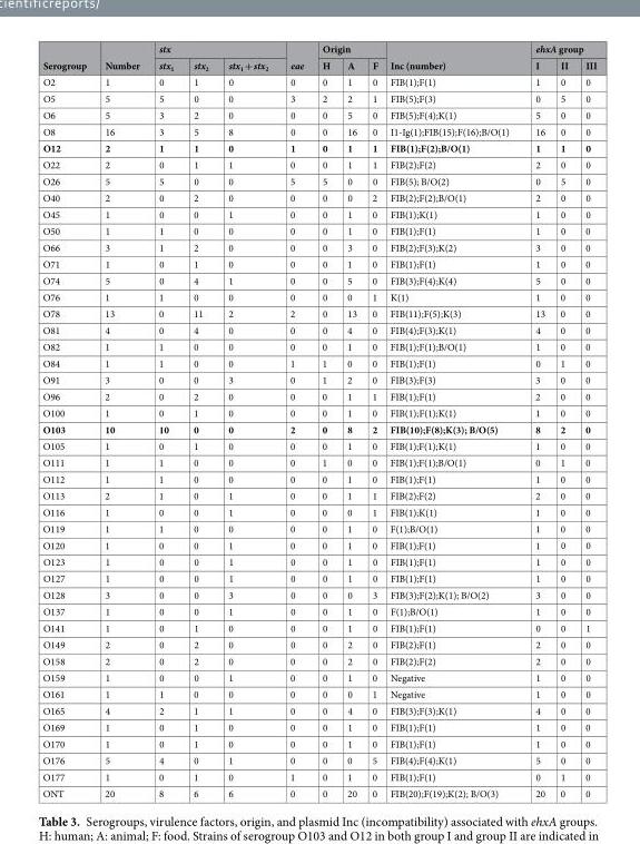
<table><thead><tr><td rowspan="2">Serogroup</td><td rowspan="2">Number</td><td colspan="3">stx</td><td rowspan="2">eae</td><td colspan="3">Origin</td><td rowspan="2">Inc (number)</td><td colspan="3">ehxA group</td></tr><tr><td>stx<sub>1</sub></td><td>stx<sub>2</sub></td><td>stx<sub>1</sub> + stx<sub>2</sub></td><td>H</td><td>A</td><td>F</td><td>I</td><td>II</td><td>III</td></tr></thead><tbody><tr><td>O2</td><td>1</td><td>0</td><td>1</td><td>0</td><td>0</td><td>0</td><td>1</td><td>0</td><td>FIB(1);F(1)</td><td>1</td><td>0</td><td>0</td></tr><tr><td>O5</td><td>5</td><td>5</td><td>0</td><td>0</td><td>3</td><td>2</td><td>2</td><td>1</td><td>FIB(5);F(3)</td><td>0</td><td>5</td><td>0</td></tr><tr><td>O6</td><td>5</td><td>3</td><td>2</td><td>0</td><td>0</td><td>0</td><td>5</td><td>0</td><td>FIB(5);F(4);K(1)</td><td>5</td><td>0</td><td>0</td></tr><tr><td>O8</td><td>16</td><td>3</td><td>5</td><td>8</td><td>0</td><td>0</td><td>16</td><td>0</td><td>I1-Ig(1);FIB(15);F(16);B/O(1)</td><td>16</td><td>0</td><td>0</td></tr><tr><td>O12</td><td>2</td><td>1</td><td>1</td><td>0</td><td>1</td><td>0</td><td>1</td><td>1</td><td>FIB(1);F(2);B/O(1)</td><td>1</td><td>1</td><td>0</td></tr><tr><td>O22</td><td>2</td><td>0</td><td>1</td><td>1</td><td>0</td><td>0</td><td>1</td><td>1</td><td>FIB(2);F(2)</td><td>2</td><td>0</td><td>0</td></tr><tr><td>O26</td><td>5</td><td>5</td><td>0</td><td>0</td><td>5</td><td>5</td><td>0</td><td>0</td><td>FIB(5); B/O(2)</td><td>0</td><td>5</td><td>0</td></tr><tr><td>O40</td><td>2</td><td>0</td><td>2</td><td>0</td><td>0</td><td>0</td><td>0</td><td>2</td><td>FIB(2);F(2);B/O(1)</td><td>2</td><td>0</td><td>0</td></tr><tr><td>O45</td><td>1</td><td>0</td><td>0</td><td>1</td><td>0</td><td>0</td><td>1</td><td>0</td><td>FIB(1);K(1)</td><td>1</td><td>0</td><td>0</td></tr><tr><td>O50</td><td>1</td><td>1</td><td>0</td><td>0</td><td>0</td><td>0</td><td>1</td><td>0</td><td>FIB(1);F(1)</td><td>1</td><td>0</td><td>0</td></tr><tr><td>O66</td><td>3</td><td>1</td><td>2</td><td>0</td><td>0</td><td>0</td><td>3</td><td>0</td><td>FIB(2);F(3);K(2)</td><td>3</td><td>0</td><td>0</td></tr><tr><td>O71</td><td>1</td><td>0</td><td>1</td><td>0</td><td>0</td><td>0</td><td>1</td><td>0</td><td>FIB(1);F(1)</td><td>1</td><td>0</td><td>0</td></tr><tr><td>O74</td><td>5</td><td>0</td><td>4</td><td>1</td><td>0</td><td>0</td><td>5</td><td>0</td><td>FIB(3);F(4);K(4)</td><td>5</td><td>0</td><td>0</td></tr><tr><td>O76</td><td>1</td><td>1</td><td>0</td><td>0</td><td>0</td><td>0</td><td>0</td><td>1</td><td>K(1)</td><td>1</td><td>0</td><td>0</td></tr><tr><td>O78</td><td>13</td><td>0</td><td>11</td><td>2</td><td>2</td><td>0</td><td>13</td><td>0</td><td>FIB(11);F(5);K(3)</td><td>13</td><td>0</td><td>0</td></tr><tr><td>O81</td><td>4</td><td>0</td><td>4</td><td>0</td><td>0</td><td>0</td><td>4</td><td>0</td><td>FIB(4);F(3);K(1)</td><td>4</td><td>0</td><td>0</td></tr><tr><td>O82</td><td>1</td><td>1</td><td>0</td><td>0</td><td>0</td><td>0</td><td>1</td><td>0</td><td>FIB(1);F(1);B/O(1)</td><td>1</td><td>0</td><td>0</td></tr><tr><td>O84</td><td>1</td><td>1</td><td>0</td><td>0</td><td>1</td><td>1</td><td>0</td><td>0</td><td>FIB(1);F(1)</td><td>0</td><td>1</td><td>0</td></tr><tr><td>O91</td><td>3</td><td>0</td><td>0</td><td>3</td><td>0</td><td>1</td><td>2</td><td>0</td><td>FIB(3);F(3)</td><td>3</td><td>0</td><td>0</td></tr><tr><td>O96</td><td>2</td><td>0</td><td>2</td><td>0</td><td>0</td><td>0</td><td>1</td><td>1</td><td>FIB(1);F(1)</td><td>2</td><td>0</td><td>0</td></tr><tr><td>O100</td><td>1</td><td>0</td><td>1</td><td>0</td><td>0</td><td>0</td><td>1</td><td>0</td><td>FIB(1);F(1);K(1)</td><td>1</td><td>0</td><td>0</td></tr><tr><td>O103</td><td>10</td><td>10</td><td>0</td><td>0</td><td>2</td><td>0</td><td>8</td><td>2</td><td>FIB(10);F(8);K(3); B/O(5)</td><td>8</td><td>2</td><td>0</td></tr><tr><td>O105</td><td>1</td><td>0</td><td>1</td><td>0</td><td>0</td><td>0</td><td>1</td><td>0</td><td>FIB(1);F(1);K(1)</td><td>1</td><td>0</td><td>0</td></tr><tr><td>O111</td><td>1</td><td>1</td><td>0</td><td>0</td><td>0</td><td>1</td><td>0</td><td>0</td><td>FIB(1);F(1);B/O(1)</td><td>0</td><td>1</td><td>0</td></tr><tr><td>O112</td><td>1</td><td>1</td><td>0</td><td>0</td><td>0</td><td>0</td><td>1</td><td>0</td><td>FIB(1);F(1)</td><td>1</td><td>0</td><td>0</td></tr><tr><td>O113</td><td>2</td><td>1</td><td>0</td><td>1</td><td>0</td><td>0</td><td>1</td><td>1</td><td>FIB(2);F(2)</td><td>2</td><td>0</td><td>0</td></tr><tr><td>O116</td><td>1</td><td>0</td><td>0</td><td>1</td><td>0</td><td>0</td><td>0</td><td>1</td><td>FIB(1);K(1)</td><td>1</td><td>0</td><td>0</td></tr><tr><td>O119</td><td>1</td><td>1</td><td>0</td><td>0</td><td>0</td><td>0</td><td>1</td><td>0</td><td>F(1);B/O(1)</td><td>1</td><td>0</td><td>0</td></tr><tr><td>O120</td><td>1</td><td>0</td><td>0</td><td>1</td><td>0</td><td>0</td><td>1</td><td>0</td><td>FIB(1);F(1)</td><td>1</td><td>0</td><td>0</td></tr><tr><td>O123</td><td>1</td><td>0</td><td>0</td><td>1</td><td>0</td><td>0</td><td>1</td><td>0</td><td>FIB(1);F(1)</td><td>1</td><td>0</td><td>0</td></tr><tr><td>O127</td><td>1</td><td>0</td><td>0</td><td>1</td><td>0</td><td>0</td><td>1</td><td>0</td><td>FIB(1);F(1)</td><td>1</td><td>0</td><td>0</td></tr><tr><td>O128</td><td>3</td><td>0</td><td>0</td><td>3</td><td>0</td><td>0</td><td>0</td><td>3</td><td>FIB(3);F(2);K(1); B/O(2)</td><td>3</td><td>0</td><td>0</td></tr><tr><td>O137</td><td>1</td><td>0</td><td>0</td><td>1</td><td>0</td><td>0</td><td>1</td><td>0</td><td>F(1);B/O(1)</td><td>1</td><td>0</td><td>0</td></tr><tr><td>O141</td><td>1</td><td>0</td><td>1</td><td>0</td><td>0</td><td>0</td><td>1</td><td>0</td><td>FIB(1);F(1)</td><td>0</td><td>0</td><td>1</td></tr><tr><td>O149</td><td>2</td><td>0</td><td>2</td><td>0</td><td>0</td><td>0</td><td>2</td><td>0</td><td>FIB(2);F(1)</td><td>2</td><td>0</td><td>0</td></tr><tr><td>O158</td><td>2</td><td>0</td><td>2</td><td>0</td><td>0</td><td>0</td><td>2</td><td>0</td><td>FIB(2);F(2)</td><td>2</td><td>0</td><td>0</td></tr><tr><td>O159</td><td>1</td><td>0</td><td>0</td><td>1</td><td>0</td><td>0</td><td>1</td><td>0</td><td>Negative</td><td>1</td><td>0</td><td>0</td></tr><tr><td>O161</td><td>1</td><td>1</td><td>0</td><td>0</td><td>0</td><td>0</td><td>0</td><td>1</td><td>Negative</td><td>1</td><td>0</td><td>0</td></tr><tr><td>O165</td><td>4</td><td>2</td><td>1</td><td>1</td><td>0</td><td>0</td><td>4</td><td>0</td><td>FIB(3);F(3);K(1)</td><td>4</td><td>0</td><td>0</td></tr><tr><td>O169</td><td>1</td><td>0</td><td>1</td><td>0</td><td>0</td><td>0</td><td>1</td><td>0</td><td>FIB(1);F(1)</td><td>1</td><td>0</td><td>0</td></tr><tr><td>O170</td><td>1</td><td>0</td><td>1</td><td>0</td><td>0</td><td>0</td><td>1</td><td>0</td><td>FIB(1);F(1)</td><td>1</td><td>0</td><td>0</td></tr><tr><td>O176</td><td>5</td><td>4</td><td>0</td><td>1</td><td>0</td><td>0</td><td>0</td><td>5</td><td>FIB(4);F(4);K(1)</td><td>5</td><td>0</td><td>0</td></tr><tr><td>O177</td><td>1</td><td>0</td><td>1</td><td>0</td><td>1</td><td>0</td><td>1</td><td>0</td><td>FIB(1);F(1)</td><td>0</td><td>1</td><td>0</td></tr><tr><td>ONT</td><td>20</td><td>8</td><td>6</td><td>6</td><td>0</td><td>0</td><td>20</td><td>0</td><td>FIB(20);F(19);K(2); B/O(3)</td><td>20</td><td>0</td><td>0</td></tr></tbody></table>